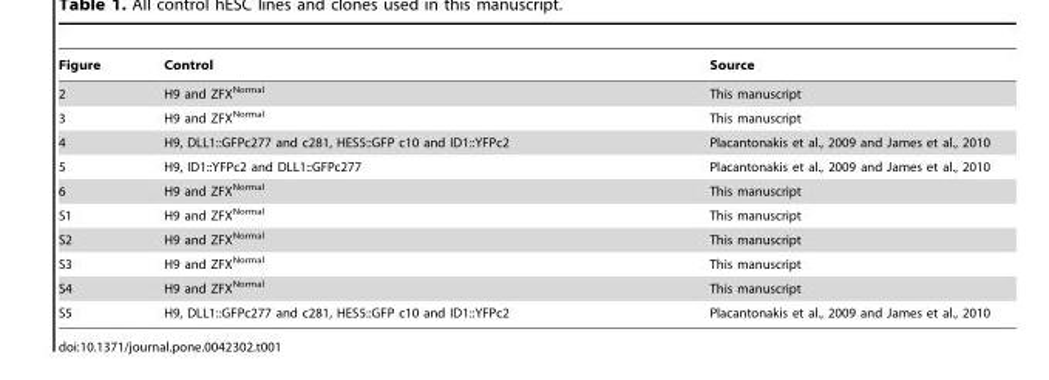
<table><thead><tr><td>Figure</td><td>Control</td><td>Source</td></tr></thead><tbody><tr><td>2</td><td>H9 and ZFX<sup>Normal</sup></td><td>This manuscript</td></tr><tr><td>3</td><td>H9 and ZFX<sup>Normal</sup></td><td>This manuscript</td></tr><tr><td>4</td><td>H9, DLL1::GFPc277 and c281, HES5::GFP c10 and ID1::YFPc2</td><td>Placantonakis et al., 2009 and James et al., 2010</td></tr><tr><td>5</td><td>H9, ID1::YFPc2 and DLL1::GFPc277</td><td>Placantonakis et al., 2009 and James et al., 2010</td></tr><tr><td>6</td><td>H9 and ZFX<sup>Normal</sup></td><td>This manuscript</td></tr><tr><td>S1</td><td>H9 and ZFX<sup>Normal</sup></td><td>This manuscript</td></tr><tr><td>S2</td><td>H9 and ZFX<sup>Normal</sup></td><td>This manuscript</td></tr><tr><td>S3</td><td>H9 and ZFX<sup>Normal</sup></td><td>This manuscript</td></tr><tr><td>S4</td><td>H9 and ZFX<sup>Normal</sup></td><td>This manuscript</td></tr><tr><td>S5</td><td>H9, DLL1::GFPc277 and c281, HES5::GFP c10 and ID1::YFPc2</td><td>Placantonakis et al., 2009 and James et al., 2010</td></tr></tbody></table>